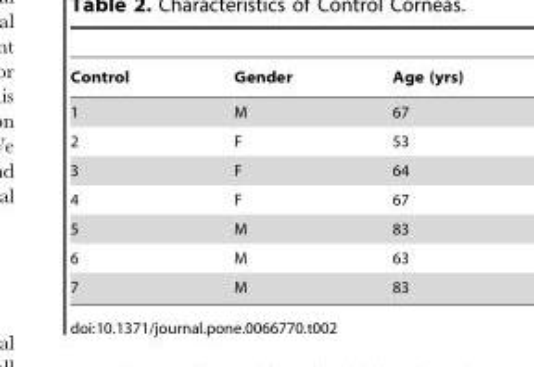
<table><thead><tr><td>Control</td><td>Gender</td><td>Age (yrs)</td></tr></thead><tbody><tr><td>1</td><td>M</td><td>67</td></tr><tr><td>2</td><td>F</td><td>53</td></tr><tr><td>3</td><td>F</td><td>64</td></tr><tr><td>4</td><td>F</td><td>67</td></tr><tr><td>5</td><td>M</td><td>83</td></tr><tr><td>6</td><td>M</td><td>63</td></tr><tr><td>7</td><td>M</td><td>83</td></tr></tbody></table>